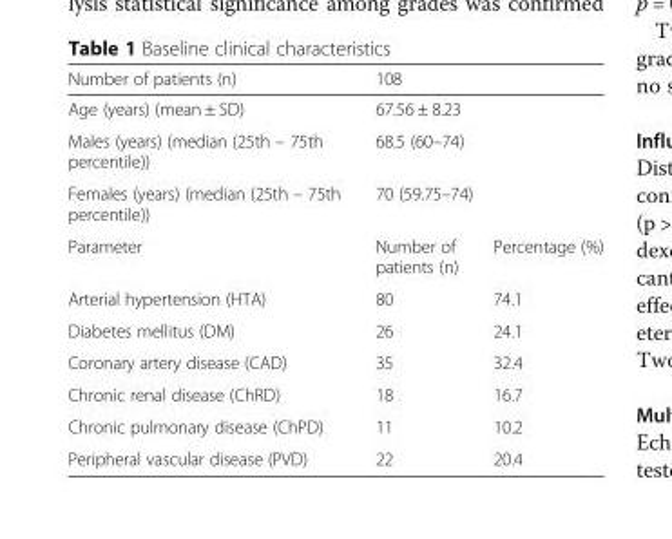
<table><thead><tr><td>Number of patients (n)</td><td colspan="2">108</td></tr></thead><tbody><tr><td>Age (years) (mean ± SD)</td><td colspan="2">67.56 ± 8.23</td></tr><tr><td>Males (years) (median (25th – 75th percentile))</td><td colspan="2">68.5 (60–74)</td></tr><tr><td>Females (years) (median (25th – 75th percentile))</td><td colspan="2">70 (59.75–74)</td></tr><tr><td>Parameter</td><td>Number of patients (n)</td><td>Percentage (%)</td></tr><tr><td>Arterial hypertension (HTA)</td><td>80</td><td>74.1</td></tr><tr><td>Diabetes mellitus (DM)</td><td>26</td><td>24.1</td></tr><tr><td>Coronary artery disease (CAD)</td><td>35</td><td>32.4</td></tr><tr><td>Chronic renal disease (ChRD)</td><td>18</td><td>16.7</td></tr><tr><td>Chronic pulmonary disease (ChPD)</td><td>11</td><td>10.2</td></tr><tr><td>Peripheral vascular disease (PVD)</td><td>22</td><td>20.4</td></tr></tbody></table>